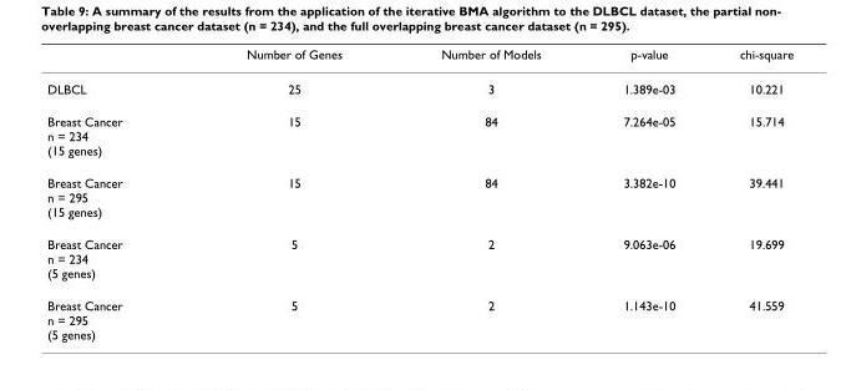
<table><thead><tr><td></td><td>Number of Genes</td><td>Number of Models</td><td>p-value</td><td>chi-square</td></tr></thead><tbody><tr><td>DLBCL</td><td>25</td><td>3</td><td>1.389e-03</td><td>10.221</td></tr><tr><td>Breast Cancer n = 234 (15 genes)</td><td>15</td><td>84</td><td>7.264e-05</td><td>15.714</td></tr><tr><td>Breast Cancer n = 295 (15 genes)</td><td>15</td><td>84</td><td>3.382e-10</td><td>39.441</td></tr><tr><td>Breast Cancer n = 234 (5 genes)</td><td>5</td><td>2</td><td>9.063e-06</td><td>19.699</td></tr><tr><td>Breast Cancer n = 295 (5 genes)</td><td>5</td><td>2</td><td>1.143e-10</td><td>41.559</td></tr></tbody></table>